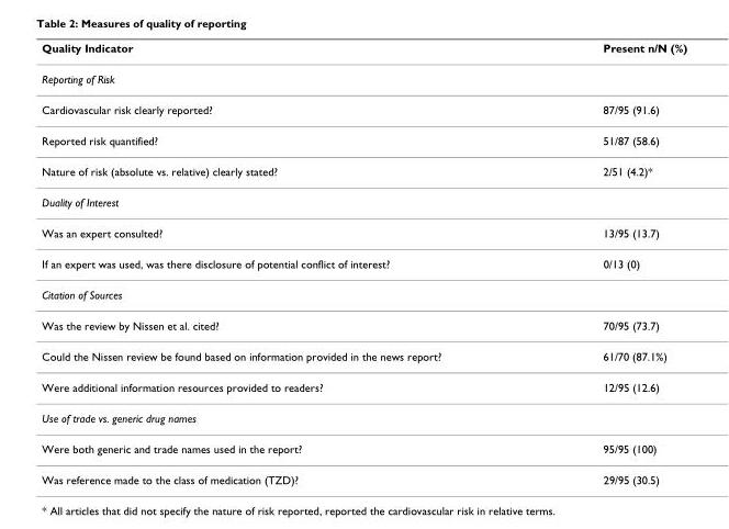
<table><thead><tr><td>Quality Indicator</td><td>Present n/N (%)</td></tr></thead><tbody><tr><td colspan="2">Reporting of Risk</td></tr><tr><td>Cardiovascular risk clearly reported?</td><td>87/95 (91.6)</td></tr><tr><td>Reported risk quantified?</td><td>51/87 (58.6)</td></tr><tr><td>Nature of risk (absolute vs. relative) clearly stated?</td><td>2/51 (4.2)*</td></tr><tr><td colspan="2">Duality of Interest</td></tr><tr><td>Was an expert consulted?</td><td>13/95 (13.7)</td></tr><tr><td>If an expert was used, was there disclosure of potential conflict of interest?</td><td>0/13 (0)</td></tr><tr><td colspan="2">Citation of Sources</td></tr><tr><td>Was the review by Nissen et al. cited?</td><td>70/95 (73.7)</td></tr><tr><td>Could the Nissen review be found based on information provided in the news report?</td><td>61/70 (87.1%)</td></tr><tr><td>Were additional information resources provided to readers?</td><td>12/95 (12.6)</td></tr><tr><td colspan="2">Use of trade vs. generic drug names</td></tr><tr><td>Were both generic and trade names used in the report?</td><td>95/95 (100)</td></tr><tr><td>Was reference made to the class of medication (TZD)?</td><td>29/95 (30.5)</td></tr></tbody></table>